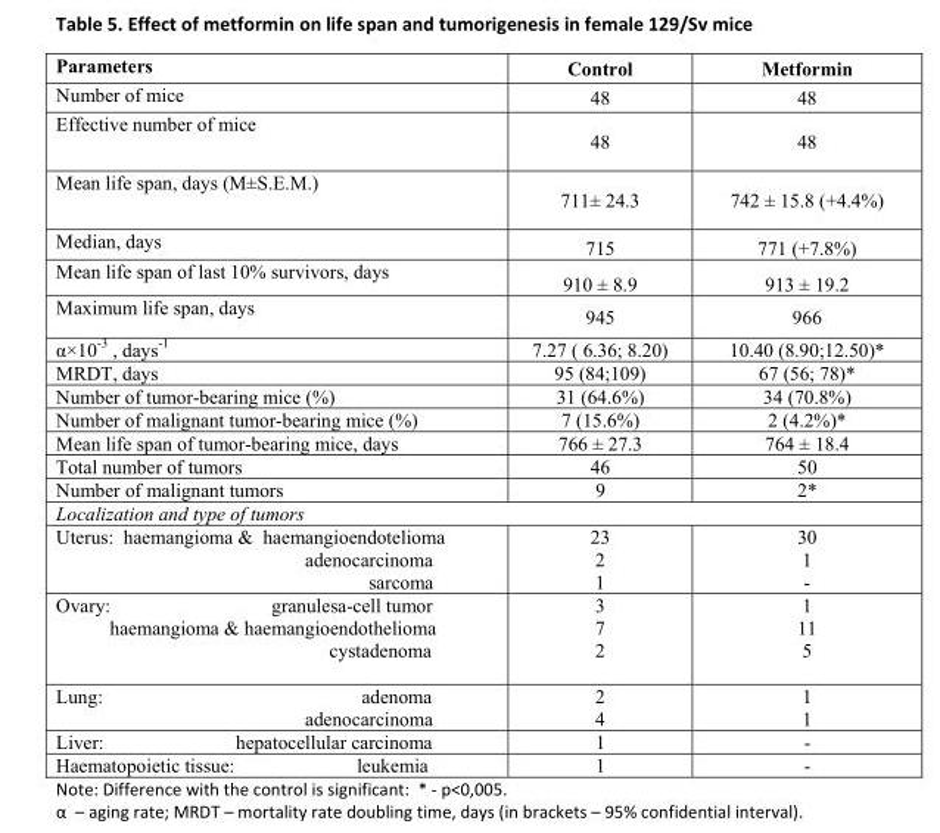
<table><thead><tr><td>Parameters</td><td>Control</td><td>Metformin</td></tr></thead><tbody><tr><td>Number of mice</td><td>48</td><td>48</td></tr><tr><td>Effective number of mice</td><td>48</td><td>48</td></tr><tr><td>Mean life span, days (М±S.E.M.)</td><td>711± 24.3</td><td>742 ± 15.8 (+4.4%)</td></tr><tr><td>Median, days</td><td>715</td><td>771 (+7.8%)</td></tr><tr><td>Mean life span of last 10% survivors, days</td><td>910 ± 8.9</td><td>913 ± 19.2</td></tr><tr><td>Maximum life span, days</td><td>945</td><td>966</td></tr><tr><td>α×10<sup>-3</sup> , days<sup>-1</sup></td><td>7.27 ( 6.36; 8.20)</td><td>10.40 (8.90;12.50)*</td></tr><tr><td>MRDT, days</td><td>95 (84;109)</td><td>67 (56; 78)*</td></tr><tr><td>Number of tumor-bearing mice (%)</td><td>31 (64.6%)</td><td>34 (70.8%)</td></tr><tr><td>Number of malignant tumor-bearing mice (%)</td><td>7 (15.6%)</td><td>2 (4.2%)*</td></tr><tr><td>Mean life span of tumor-bearing mice, days</td><td>766 ± 27.3</td><td>764 ± 18.4</td></tr><tr><td>Total number of tumors</td><td>46</td><td>50</td></tr><tr><td>Number of malignant tumors</td><td>9</td><td>2*</td></tr><tr><td colspan="3">Localization and type of tumors</td></tr><tr><td>Uterus: haemangioma &amp; haemangioendotelioma adenocarcinoma sarcoma</td><td>23 2 1</td><td>30 1 -</td></tr><tr><td>Ovary: granulesa-cell tumor haemangioma &amp; haemangioendothelioma cystadenoma</td><td>3 7 2</td><td>1 11 5</td></tr><tr><td>Lung: adenoma adenocarcinoma</td><td>2 4</td><td>1 1</td></tr><tr><td>Liver: hepatocellular carcinoma</td><td>1</td><td>-</td></tr><tr><td>Haematopoietic tissue: leukemia</td><td>1</td><td>-</td></tr></tbody></table>